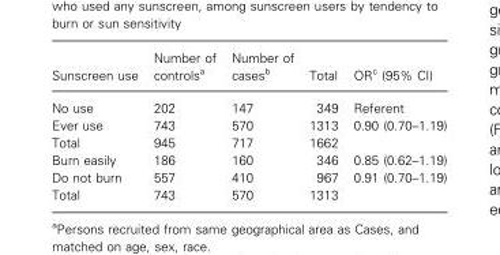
<table><thead><tr><td>Sunscreen use</td><td>Number of controls<sup>a</sup></td><td>Number of cases<sup>b</sup></td><td>Total</td><td>OR<sup>c</sup> (95% CI)</td></tr></thead><tbody><tr><td>No use</td><td>202</td><td>147</td><td>349</td><td>Referent</td></tr><tr><td>Ever use</td><td>743</td><td>570</td><td>1313</td><td>0.90 (0.70–1.19)</td></tr><tr><td>Total</td><td>945</td><td>717</td><td>1662</td><td></td></tr><tr><td>Burn easily</td><td>186</td><td>160</td><td>346</td><td>0.85 (0.62–1.19)</td></tr><tr><td>Do not burn</td><td>557</td><td>410</td><td>967</td><td>0.91 (0.70–1.19)</td></tr><tr><td>Total</td><td>743</td><td>570</td><td>1313</td><td></td></tr></tbody></table>